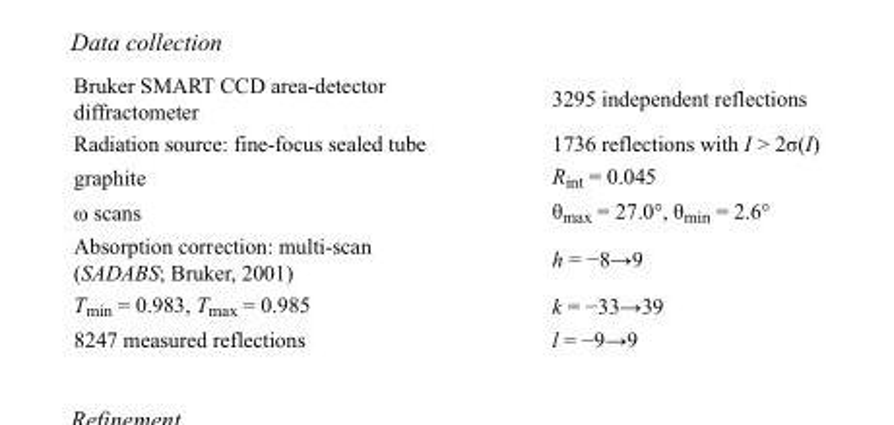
<table><tbody><tr><td>Bruker SMART CCD area-detector diffractometer</td><td>3295 independent reflections</td></tr><tr><td>Radiation source: fine-focus sealed tube</td><td>1736 reflections with I &gt; 2σ(I)</td></tr><tr><td>graphite</td><td>R<sub>int</sub> = 0.045</td></tr><tr><td>ω scans</td><td>θ<sub>max</sub> = 27.0°, θ<sub>min</sub> = 2.6°</td></tr><tr><td>Absorption correction: multi-scan (SADABS; Bruker, 2001)</td><td>h = −8→9</td></tr><tr><td>T<sub>min</sub> = 0.983, T<sub>max</sub> = 0.985</td><td>k = −33→39</td></tr><tr><td>8247 measured reflections</td><td>l = −9→9</td></tr></tbody></table>